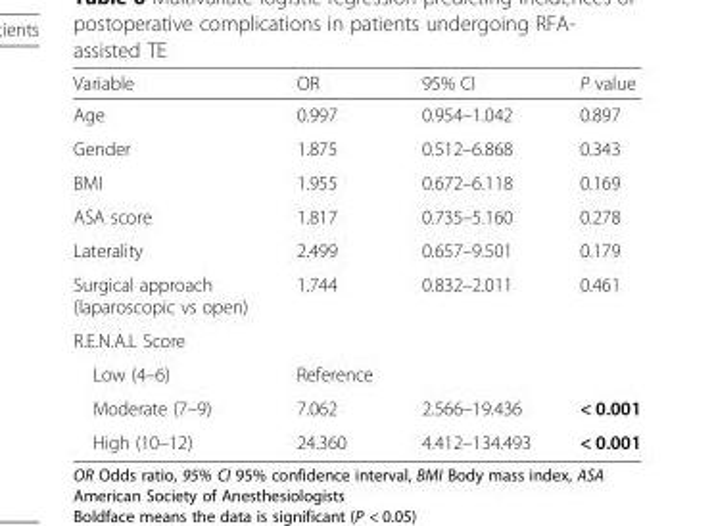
<table><thead><tr><td>Variable</td><td>OR</td><td>95% CI</td><td>P value</td></tr></thead><tbody><tr><td>Age</td><td>0.997</td><td>0.954–1.042</td><td>0.897</td></tr><tr><td>Gender</td><td>1.875</td><td>0.512–6.868</td><td>0.343</td></tr><tr><td>BMI</td><td>1.955</td><td>0.672–6.118</td><td>0.169</td></tr><tr><td>ASA score</td><td>1.817</td><td>0.735–5.160</td><td>0.278</td></tr><tr><td>Laterality</td><td>2.499</td><td>0.657–9.501</td><td>0.179</td></tr><tr><td>Surgical approach (laparoscopic vs open)</td><td>1.744</td><td>0.832–2.011</td><td>0.461</td></tr><tr><td colspan="4">R.E.N.A.L Score</td></tr><tr><td>Low (4–6)</td><td>Reference</td><td></td><td></td></tr><tr><td>Moderate (7–9)</td><td>7.062</td><td>2.566–19.436</td><td>&lt; 0.001</td></tr><tr><td>High (10–12)</td><td>24.360</td><td>4.412–134.493</td><td>&lt; 0.001</td></tr></tbody></table>